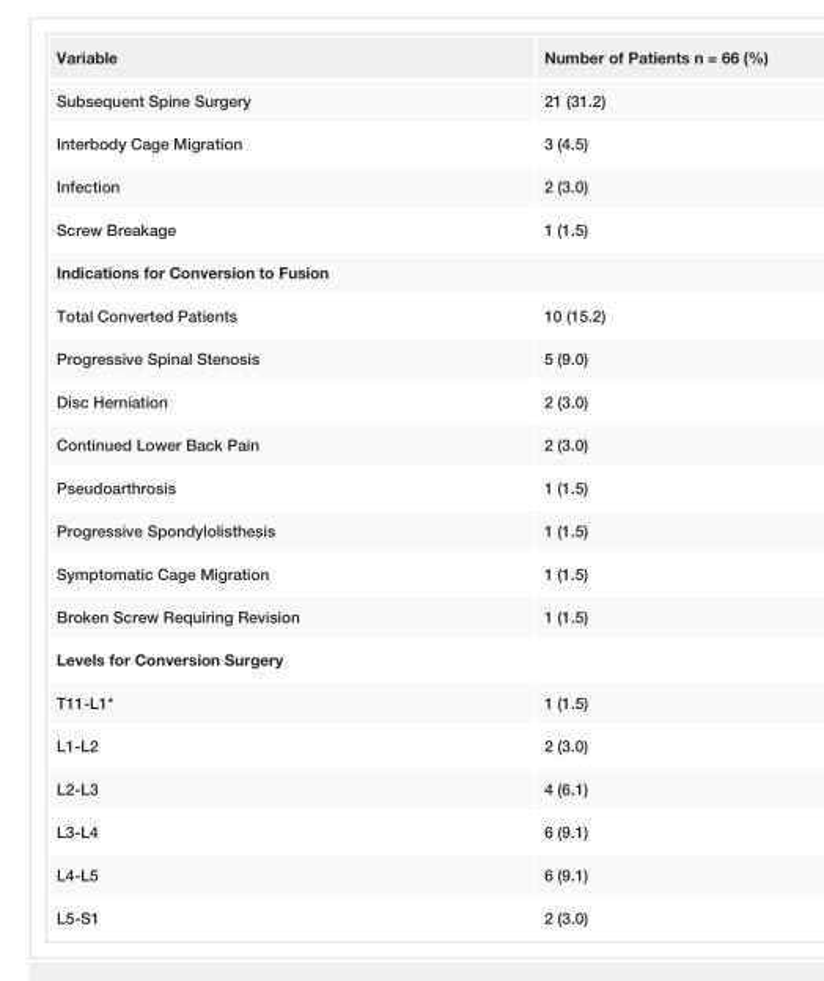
<table><tbody><tr><td>Variable</td><td>Number of Patients n = 66 (%)</td></tr><tr><td>Subsequent Spine Surgery</td><td>21 (31.2)</td></tr><tr><td>Interbody Cage Migration</td><td>3 (4.5)</td></tr><tr><td>Infection</td><td>2 (3.0)</td></tr><tr><td>Screw Breakage</td><td>1 (1.5)</td></tr><tr><td colspan="2">Indications for Conversion to Fusion</td></tr><tr><td>Total Converted Patients</td><td>10 (15.2)</td></tr><tr><td>Progressive Spinal Stenosis</td><td>5 (9.0)</td></tr><tr><td>Disc Herniation</td><td>2 (3.0)</td></tr><tr><td>Continued Lower Back Pain</td><td>2 (3.0)</td></tr><tr><td>Pseudoarthrosis</td><td>1 (1.5)</td></tr><tr><td>Progressive Spondylolisthesis</td><td>1 (1.5)</td></tr><tr><td>Symptomatic Cage Migration</td><td>1 (1.5)</td></tr><tr><td>Broken Screw Requiring Revision</td><td>1 (1.5)</td></tr><tr><td colspan="2">Levels for Conversion Surgery</td></tr><tr><td>T11-L1*</td><td>1 (1.5)</td></tr><tr><td>L1-L2</td><td>2 (3.0)</td></tr><tr><td>L2-L3</td><td>4 (6.1)</td></tr><tr><td>L3-L4</td><td>6 (9.1)</td></tr><tr><td>L4-L5</td><td>6 (9.1)</td></tr><tr><td>L5-S1</td><td>2 (3.0)</td></tr></tbody></table>